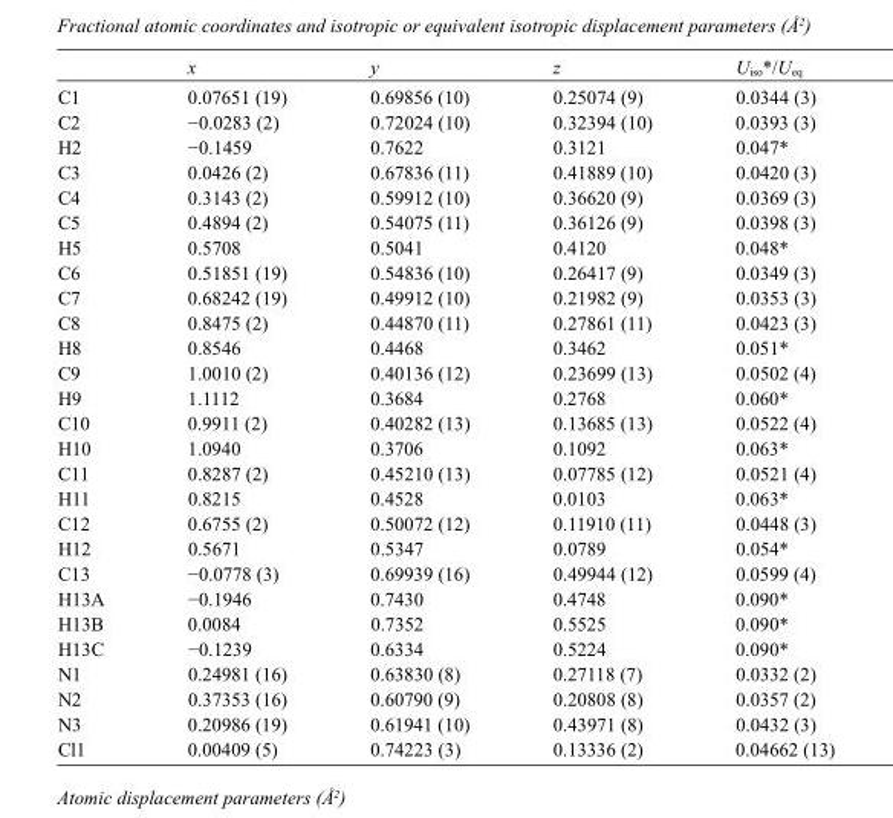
<table><thead><tr><td></td><td>x</td><td>y</td><td>z</td><td>U<sub>iso</sub>*/U<sub>eq</sub></td></tr></thead><tbody><tr><td>C1</td><td>0.07651 (19)</td><td>0.69856 (10)</td><td>0.25074 (9)</td><td>0.0344 (3)</td></tr><tr><td>C2</td><td>−0.0283 (2)</td><td>0.72024 (10)</td><td>0.32394 (10)</td><td>0.0393 (3)</td></tr><tr><td>H2</td><td>−0.1459</td><td>0.7622</td><td>0.3121</td><td>0.047*</td></tr><tr><td>C3</td><td>0.0426 (2)</td><td>0.67836 (11)</td><td>0.41889 (10)</td><td>0.0420 (3)</td></tr><tr><td>C4</td><td>0.3143 (2)</td><td>0.59912 (10)</td><td>0.36620 (9)</td><td>0.0369 (3)</td></tr><tr><td>C5</td><td>0.4894 (2)</td><td>0.54075 (11)</td><td>0.36126 (9)</td><td>0.0398 (3)</td></tr><tr><td>H5</td><td>0.5708</td><td>0.5041</td><td>0.4120</td><td>0.048*</td></tr><tr><td>C6</td><td>0.51851 (19)</td><td>0.54836 (10)</td><td>0.26417 (9)</td><td>0.0349 (3)</td></tr><tr><td>C7</td><td>0.68242 (19)</td><td>0.49912 (10)</td><td>0.21982 (9)</td><td>0.0353 (3)</td></tr><tr><td>C8</td><td>0.8475 (2)</td><td>0.44870 (11)</td><td>0.27861 (11)</td><td>0.0423 (3)</td></tr><tr><td>H8</td><td>0.8546</td><td>0.4468</td><td>0.3462</td><td>0.051*</td></tr><tr><td>C9</td><td>1.0010 (2)</td><td>0.40136 (12)</td><td>0.23699 (13)</td><td>0.0502 (4)</td></tr><tr><td>H9</td><td>1.1112</td><td>0.3684</td><td>0.2768</td><td>0.060*</td></tr><tr><td>C10</td><td>0.9911 (2)</td><td>0.40282 (13)</td><td>0.13685 (13)</td><td>0.0522 (4)</td></tr><tr><td>H10</td><td>1.0940</td><td>0.3706</td><td>0.1092</td><td>0.063*</td></tr><tr><td>C11</td><td>0.8287 (2)</td><td>0.45210 (13)</td><td>0.07785 (12)</td><td>0.0521 (4)</td></tr><tr><td>H11</td><td>0.8215</td><td>0.4528</td><td>0.0103</td><td>0.063*</td></tr><tr><td>C12</td><td>0.6755 (2)</td><td>0.50072 (12)</td><td>0.11910 (11)</td><td>0.0448 (3)</td></tr><tr><td>H12</td><td>0.5671</td><td>0.5347</td><td>0.0789</td><td>0.054*</td></tr><tr><td>C13</td><td>−0.0778 (3)</td><td>0.69939 (16)</td><td>0.49944 (12)</td><td>0.0599 (4)</td></tr><tr><td>H13A</td><td>−0.1946</td><td>0.7430</td><td>0.4748</td><td>0.090*</td></tr><tr><td>H13B</td><td>0.0084</td><td>0.7352</td><td>0.5525</td><td>0.090*</td></tr><tr><td>H13C</td><td>−0.1239</td><td>0.6334</td><td>0.5224</td><td>0.090*</td></tr><tr><td>N1</td><td>0.24981 (16)</td><td>0.63830 (8)</td><td>0.27118 (7)</td><td>0.0332 (2)</td></tr><tr><td>N2</td><td>0.37353 (16)</td><td>0.60790 (9)</td><td>0.20808 (8)</td><td>0.0357 (2)</td></tr><tr><td>N3</td><td>0.20986 (19)</td><td>0.61941 (10)</td><td>0.43971 (8)</td><td>0.0432 (3)</td></tr><tr><td>Cl1</td><td>0.00409 (5)</td><td>0.74223 (3)</td><td>0.13336 (2)</td><td>0.04662 (13)</td></tr></tbody></table>